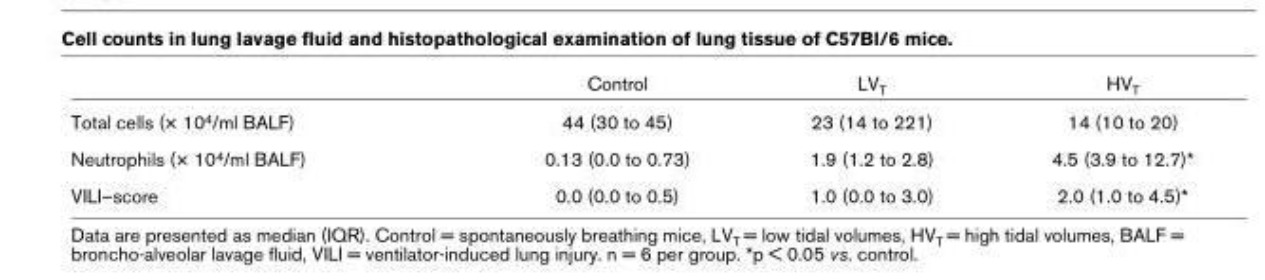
<table><thead><tr><td></td><td>Control</td><td>LV<sub>T</sub></td><td>HV<sub>T</sub></td></tr></thead><tbody><tr><td>Total cells (× 10<sup>4</sup>/ml BALF)</td><td>44 (30 to 45)</td><td>23 (14 to 221)</td><td>14 (10 to 20)</td></tr><tr><td>Neutrophils (× 10<sup>4</sup>/ml BALF)</td><td>0.13 (0.0 to 0.73)</td><td>1.9 (1.2 to 2.8)</td><td>4.5 (3.9 to 12.7)*</td></tr><tr><td>VILI–score</td><td>0.0 (0.0 to 0.5)</td><td>1.0 (0.0 to 3.0)</td><td>2.0 (1.0 to 4.5)*</td></tr></tbody></table>